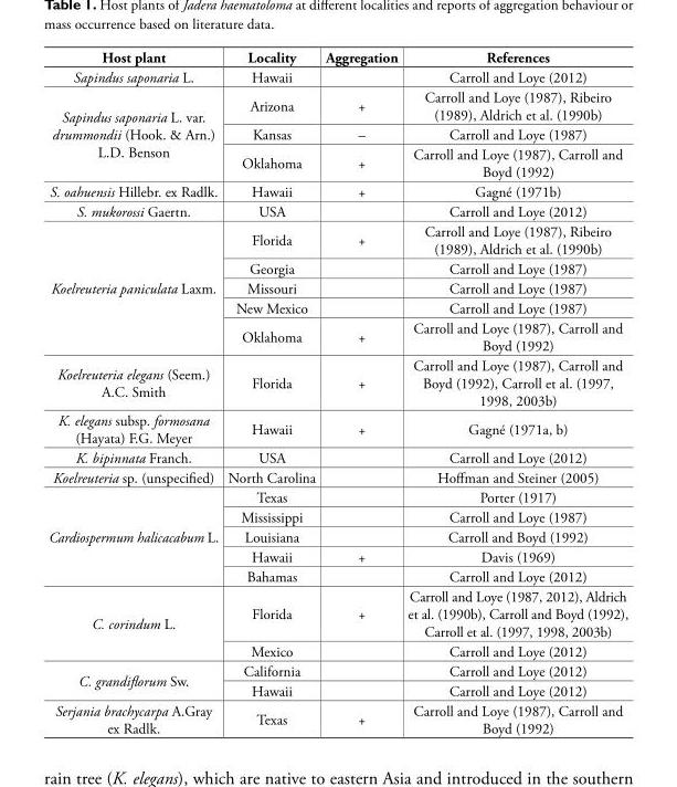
<table><thead><tr><td>Host plant</td><td>Locality</td><td>Aggregation</td><td>References</td></tr></thead><tbody><tr><td>Sapindus saponaria L.</td><td>Hawaii</td><td></td><td>Carroll and Loye (2012)</td></tr><tr><td rowspan="3">Sapindus saponaria L. var. drummondii (Hook. &amp; Arn.) L.D. Benson</td><td>Arizona</td><td>+</td><td>Carroll and Loye (1987), Ribeiro (1989), Aldrich et al. (1990b)</td></tr><tr><td>Kansas</td><td>–</td><td>Carroll and Loye (1987)</td></tr><tr><td>Oklahoma</td><td>+</td><td>Carroll and Loye (1987), Carroll and Boyd (1992)</td></tr><tr><td>S. oahuensis Hillebr. ex Radlk.</td><td>Hawaii</td><td>+</td><td>Gagné (1971b)</td></tr><tr><td>S. mukorossi Gaertn.</td><td>USA</td><td></td><td>Carroll and Loye (2012)</td></tr><tr><td rowspan="5">Koelreuteria paniculata Laxm.</td><td>Florida</td><td>+</td><td>Carroll and Loye (1987), Ribeiro (1989), Aldrich et al. (1990b)</td></tr><tr><td>Georgia</td><td></td><td>Carroll and Loye (1987)</td></tr><tr><td>Missouri</td><td></td><td>Carroll and Loye (1987)</td></tr><tr><td>New Mexico</td><td></td><td>Carroll and Loye (1987)</td></tr><tr><td>Oklahoma</td><td>+</td><td>Carroll and Loye (1987), Carroll and Boyd (1992)</td></tr><tr><td>Koelreuteria elegans (Seem.) A.C. Smith</td><td>Florida</td><td>+</td><td>Carroll and Loye (1987), Carroll and Boyd (1992), Carroll et al. (1997, 1998, 2003b)</td></tr><tr><td>K. elegans subsp. formosana (Hayata) F.G. Meyer</td><td>Hawaii</td><td>+</td><td>Gagné (1971a, b)</td></tr><tr><td>K. bipinnata Franch.</td><td>USA</td><td></td><td>Carroll and Loye (2012)</td></tr><tr><td>Koelreuteria sp. (unspecified)</td><td>North Carolina</td><td></td><td>Hoffman and Steiner (2005)</td></tr><tr><td rowspan="5">Cardiospermum halicacabum L.</td><td>Texas</td><td></td><td>Porter (1917)</td></tr><tr><td>Mississippi</td><td></td><td>Carroll and Loye (1987)</td></tr><tr><td>Louisiana</td><td></td><td>Carroll and Boyd (1992)</td></tr><tr><td>Hawaii</td><td>+</td><td>Davis (1969)</td></tr><tr><td>Bahamas</td><td></td><td>Carroll and Loye (2012)</td></tr><tr><td rowspan="2">C. corindum L.</td><td>Florida</td><td>+</td><td>Carroll and Loye (1987, 2012), Aldrich et al. (1990b), Carroll and Boyd (1992), Carroll et al. (1997, 1998, 2003b)</td></tr><tr><td>Mexico</td><td></td><td>Carroll and Loye (2012)</td></tr><tr><td rowspan="2">C. grandiflorum Sw.</td><td>California</td><td></td><td>Carroll and Loye (2012)</td></tr><tr><td>Hawaii</td><td></td><td>Carroll and Loye (2012)</td></tr><tr><td>Serjania brachycarpa A.Gray ex Radlk.</td><td>Texas</td><td>+</td><td>Carroll and Loye (1987), Carroll and Boyd (1992)</td></tr></tbody></table>